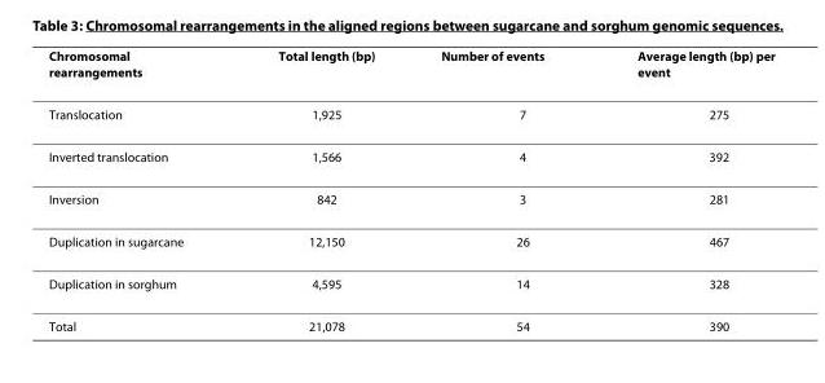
<table><thead><tr><td>Chromosomal rearrangements</td><td>Total length (bp)</td><td>Number of events</td><td>Average length (bp) per event</td></tr></thead><tbody><tr><td>Translocation</td><td>1,925</td><td>7</td><td>275</td></tr><tr><td>Inverted translocation</td><td>1,566</td><td>4</td><td>392</td></tr><tr><td>Inversion</td><td>842</td><td>3</td><td>281</td></tr><tr><td>Duplication in sugarcane</td><td>12,150</td><td>26</td><td>467</td></tr><tr><td>Duplication in sorghum</td><td>4,595</td><td>14</td><td>328</td></tr><tr><td>Total</td><td>21,078</td><td>54</td><td>390</td></tr></tbody></table>